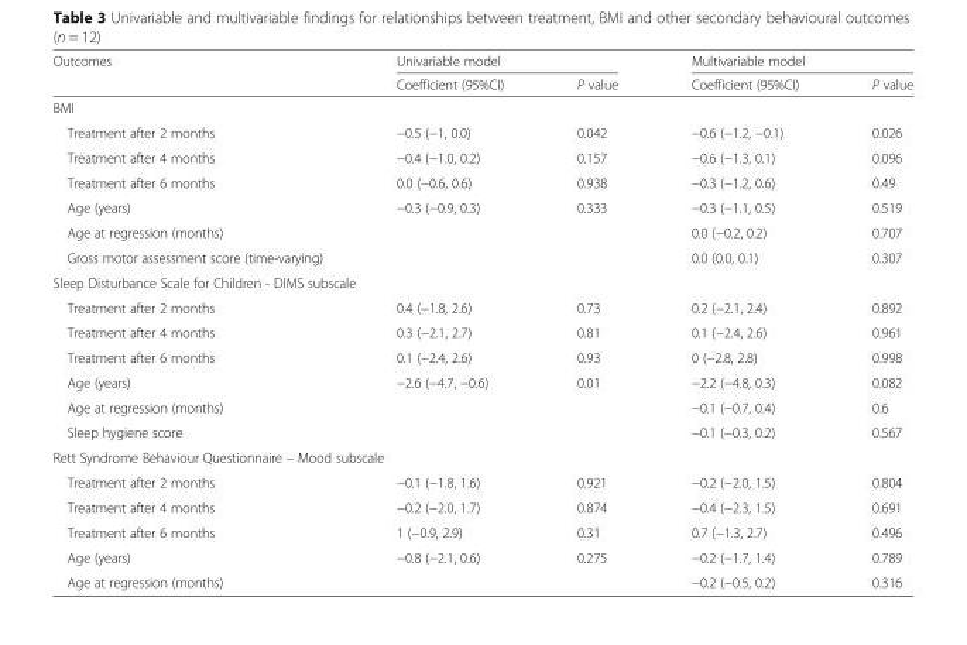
<table><thead><tr><td rowspan="2">Outcomes</td><td colspan="2">Univariable model</td><td colspan="2">Multivariable model</td></tr><tr><td>Coefficient (95%CI)</td><td>P value</td><td>Coefficient (95%CI)</td><td>P value</td></tr></thead><tbody><tr><td colspan="5">BMI</td></tr><tr><td>Treatment after 2 months</td><td>−0.5 (−1, 0.0)</td><td>0.042</td><td>−0.6 (−1.2, −0.1)</td><td>0.026</td></tr><tr><td>Treatment after 4 months</td><td>−0.4 (−1.0, 0.2)</td><td>0.157</td><td>−0.6 (−1.3, 0.1)</td><td>0.096</td></tr><tr><td>Treatment after 6 months</td><td>0.0 (−0.6, 0.6)</td><td>0.938</td><td>−0.3 (−1.2, 0.6)</td><td>0.49</td></tr><tr><td>Age (years)</td><td>−0.3 (−0.9, 0.3)</td><td>0.333</td><td>−0.3 (−1.1, 0.5)</td><td>0.519</td></tr><tr><td>Age at regression (months)</td><td></td><td></td><td>0.0 (−0.2, 0.2)</td><td>0.707</td></tr><tr><td>Gross motor assessment score (time-varying)</td><td></td><td></td><td>0.0 (0.0, 0.1)</td><td>0.307</td></tr><tr><td colspan="5">Sleep Disturbance Scale for Children - DIMS subscale</td></tr><tr><td>Treatment after 2 months</td><td>0.4 (−1.8, 2.6)</td><td>0.73</td><td>0.2 (−2.1, 2.4)</td><td>0.892</td></tr><tr><td>Treatment after 4 months</td><td>0.3 (−2.1, 2.7)</td><td>0.81</td><td>0.1 (−2.4, 2.6)</td><td>0.961</td></tr><tr><td>Treatment after 6 months</td><td>0.1 (−2.4, 2.6)</td><td>0.93</td><td>0 (−2.8, 2.8)</td><td>0.998</td></tr><tr><td>Age (years)</td><td>−2.6 (−4.7, −0.6)</td><td>0.01</td><td>−2.2 (−4.8, 0.3)</td><td>0.082</td></tr><tr><td>Age at regression (months)</td><td></td><td></td><td>−0.1 (−0.7, 0.4)</td><td>0.6</td></tr><tr><td>Sleep hygiene score</td><td></td><td></td><td>−0.1 (−0.3, 0.2)</td><td>0.567</td></tr><tr><td colspan="5">Rett Syndrome Behaviour Questionnaire – Mood subscale</td></tr><tr><td>Treatment after 2 months</td><td>−0.1 (−1.8, 1.6)</td><td>0.921</td><td>−0.2 (−2.0, 1.5)</td><td>0.804</td></tr><tr><td>Treatment after 4 months</td><td>−0.2 (−2.0, 1.7)</td><td>0.874</td><td>−0.4 (−2.3, 1.5)</td><td>0.691</td></tr><tr><td>Treatment after 6 months</td><td>1 (−0.9, 2.9)</td><td>0.31</td><td>0.7 (−1.3, 2.7)</td><td>0.496</td></tr><tr><td>Age (years)</td><td>−0.8 (−2.1, 0.6)</td><td>0.275</td><td>−0.2 (−1.7, 1.4)</td><td>0.789</td></tr><tr><td>Age at regression (months)</td><td></td><td></td><td>−0.2 (−0.5, 0.2)</td><td>0.316</td></tr></tbody></table>